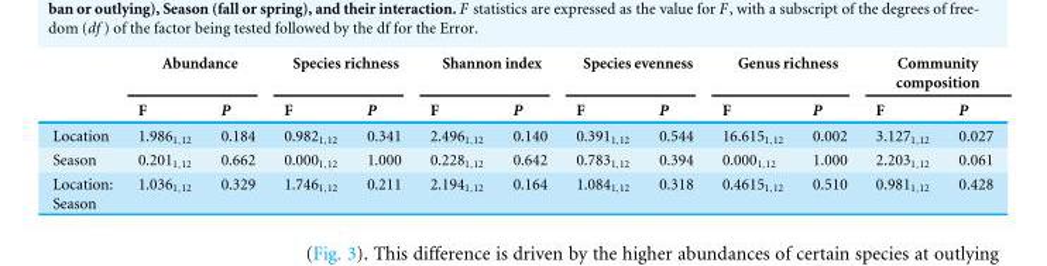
<table><thead><tr><td rowspan="2"></td><td colspan="2">Abundance</td><td colspan="2">Species richness</td><td colspan="2">Shannon index</td><td colspan="2">Species evenness</td><td colspan="2">Genus richness</td><td colspan="2">Community composition</td></tr><tr><td>F</td><td>P</td><td>F</td><td>P</td><td>F</td><td>P</td><td>F</td><td>P</td><td>F</td><td>P</td><td>F</td><td>P</td></tr></thead><tbody><tr><td>Location</td><td>1.986<sub>1,12</sub></td><td>0.184</td><td>0.982<sub>1,12</sub></td><td>0.341</td><td>2.496<sub>1,12</sub></td><td>0.140</td><td>0.391<sub>1,12</sub></td><td>0.544</td><td>16.615<sub>1,12</sub></td><td>0.002</td><td>3.127<sub>1,12</sub></td><td>0.027</td></tr><tr><td>Season</td><td>0.201<sub>1,12</sub></td><td>0.662</td><td>0.000<sub>1,12</sub></td><td>1.000</td><td>0.228<sub>1,12</sub></td><td>0.642</td><td>0.783<sub>1,12</sub></td><td>0.394</td><td>0.000<sub>1,12</sub></td><td>1.000</td><td>2.203<sub>1,12</sub></td><td>0.061</td></tr><tr><td>Location: Season</td><td>1.036<sub>1,12</sub></td><td>0.329</td><td>1.746<sub>1,12</sub></td><td>0.211</td><td>2.194<sub>1,12</sub></td><td>0.164</td><td>1.084<sub>1,12</sub></td><td>0.318</td><td>0.4615<sub>1,12</sub></td><td>0.510</td><td>0.981<sub>1,12</sub></td><td>0.428</td></tr></tbody></table>